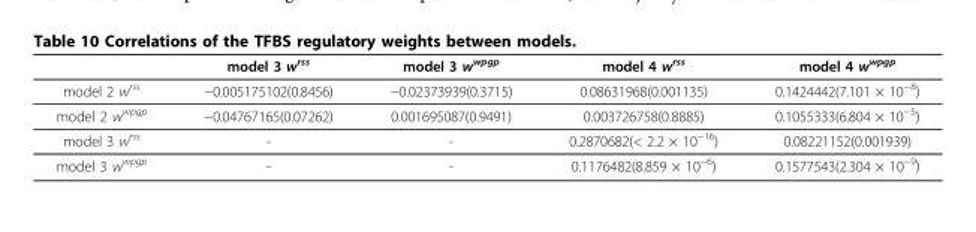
<table><thead><tr><td></td><td>model 3 w<sup>rss</sup></td><td>model 3 w<sup>wpgp</sup></td><td>model 4 w<sup>rss</sup></td><td>model 4 w<sup>wpgp</sup></td></tr></thead><tbody><tr><td>model 2 w<sup>rss</sup></td><td>−0.005175102(0.8456)</td><td>−0.02373939(0.3715)</td><td>0.08631968(0.001135)</td><td>0.1424442(7.101 × 10<sup>−8</sup>)</td></tr><tr><td>model 2 w<sup>wpgp</sup></td><td>−0.04767165(0.07262)</td><td>0.001695087(0.9491)</td><td>0.003726758(0.8885)</td><td>0.1055333(6.804 × 10<sup>−5</sup>)</td></tr><tr><td>model 3 w<sup>rss</sup></td><td>-</td><td>-</td><td>0.2870682(&lt; 2.2 × 10<sup>−16</sup>)</td><td>0.08221152(0.001939)</td></tr><tr><td>model 3 w<sup>wpgp</sup></td><td>-</td><td>-</td><td>0.1176482(8.859 × 10<sup>−6</sup>)</td><td>0.1577543(2.304 × 10<sup>−9</sup>)</td></tr></tbody></table>